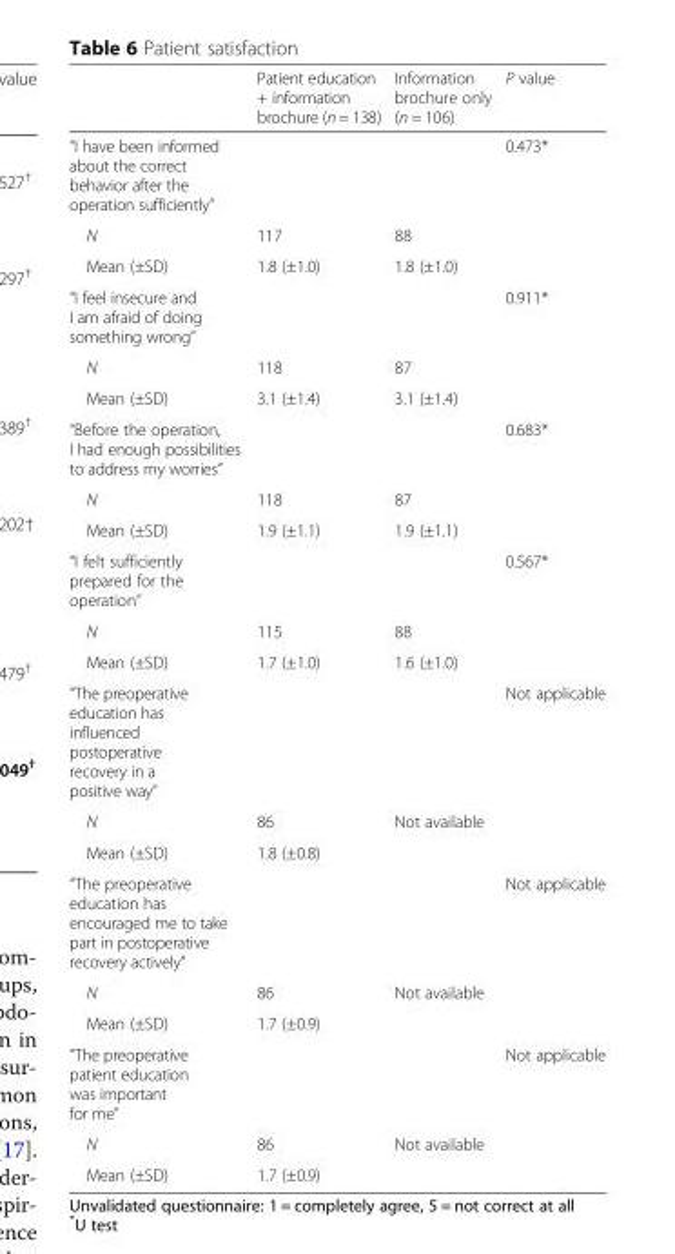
<table><thead><tr><td></td><td>Patient education + information brochure (n = 138)</td><td>Information brochure only (n = 106)</td><td>P value</td></tr></thead><tbody><tr><td>“I have been informed about the correct behavior after the operation sufficiently”</td><td></td><td></td><td>0.473*</td></tr><tr><td>N</td><td>117</td><td>88</td><td></td></tr><tr><td>Mean (±SD)</td><td>1.8 (±1.0)</td><td>1.8 (±1.0)</td><td></td></tr><tr><td>“I feel insecure and I am afraid of doing something wrong”</td><td></td><td></td><td>0.911*</td></tr><tr><td>N</td><td>118</td><td>87</td><td></td></tr><tr><td>Mean (±SD)</td><td>3.1 (±1.4)</td><td>3.1 (±1.4)</td><td></td></tr><tr><td>“Before the operation, I had enough possibilities to address my worries”</td><td></td><td></td><td>0.683*</td></tr><tr><td>N</td><td>118</td><td>87</td><td></td></tr><tr><td>Mean (±SD)</td><td>1.9 (±1.1)</td><td>1.9 (±1.1)</td><td></td></tr><tr><td>“I felt sufficiently prepared for the operation”</td><td></td><td></td><td>0.567*</td></tr><tr><td>N</td><td>115</td><td>88</td><td></td></tr><tr><td>Mean (±SD)</td><td>1.7 (±1.0)</td><td>1.6 (±1.0)</td><td></td></tr><tr><td>“The preoperative education has influenced postoperative recovery in a positive way”</td><td></td><td></td><td>Not applicable</td></tr><tr><td>N</td><td>86</td><td>Not available</td><td></td></tr><tr><td>Mean (±SD)</td><td>1.8 (±0.8)</td><td></td><td></td></tr><tr><td>“The preoperative education has encouraged me to take part in postoperative recovery actively”</td><td></td><td></td><td>Not applicable</td></tr><tr><td>N</td><td>86</td><td>Not available</td><td></td></tr><tr><td>Mean (±SD)</td><td>1.7 (±0.9)</td><td></td><td></td></tr><tr><td>“The preoperative patient education was important for me”</td><td></td><td></td><td>Not applicable</td></tr><tr><td>N</td><td>86</td><td>Not available</td><td></td></tr><tr><td>Mean (±SD)</td><td>1.7 (±0.9)</td><td></td><td></td></tr></tbody></table>